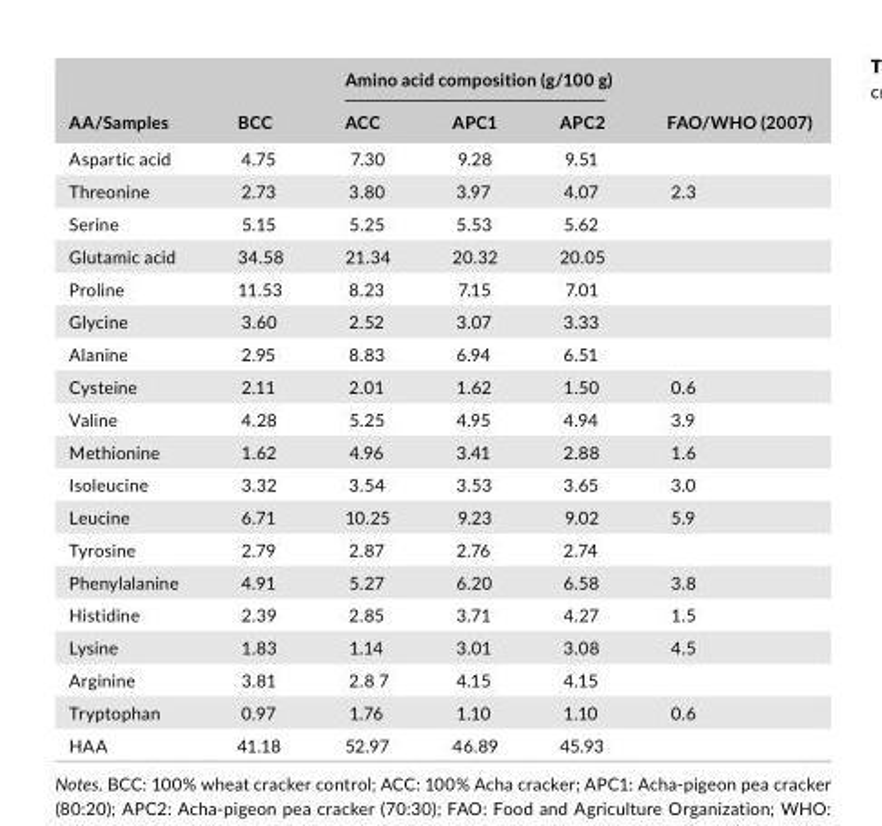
<table><thead><tr><td rowspan="2">AA/Samples</td><td rowspan="2">BCC</td><td colspan="3">Amino acid composition (g/100 g)</td><td rowspan="2">FAO/WHO (2007)</td></tr><tr><td>ACC</td><td>APC1</td><td>APC2</td></tr></thead><tbody><tr><td>Aspartic acid</td><td>4.75</td><td>7.30</td><td>9.28</td><td>9.51</td><td></td></tr><tr><td>Threonine</td><td>2.73</td><td>3.80</td><td>3.97</td><td>4.07</td><td>2.3</td></tr><tr><td>Serine</td><td>5.15</td><td>5.25</td><td>5.53</td><td>5.62</td><td></td></tr><tr><td>Glutamic acid</td><td>34.58</td><td>21.34</td><td>20.32</td><td>20.05</td><td></td></tr><tr><td>Proline</td><td>11.53</td><td>8.23</td><td>7.15</td><td>7.01</td><td></td></tr><tr><td>Glycine</td><td>3.60</td><td>2.52</td><td>3.07</td><td>3.33</td><td></td></tr><tr><td>Alanine</td><td>2.95</td><td>8.83</td><td>6.94</td><td>6.51</td><td></td></tr><tr><td>Cysteine</td><td>2.11</td><td>2.01</td><td>1.62</td><td>1.50</td><td>0.6</td></tr><tr><td>Valine</td><td>4.28</td><td>5.25</td><td>4.95</td><td>4.94</td><td>3.9</td></tr><tr><td>Methionine</td><td>1.62</td><td>4.96</td><td>3.41</td><td>2.88</td><td>1.6</td></tr><tr><td>Isoleucine</td><td>3.32</td><td>3.54</td><td>3.53</td><td>3.65</td><td>3.0</td></tr><tr><td>Leucine</td><td>6.71</td><td>10.25</td><td>9.23</td><td>9.02</td><td>5.9</td></tr><tr><td>Tyrosine</td><td>2.79</td><td>2.87</td><td>2.76</td><td>2.74</td><td></td></tr><tr><td>Phenylalanine</td><td>4.91</td><td>5.27</td><td>6.20</td><td>6.58</td><td>3.8</td></tr><tr><td>Histidine</td><td>2.39</td><td>2.85</td><td>3.71</td><td>4.27</td><td>1.5</td></tr><tr><td>Lysine</td><td>1.83</td><td>1.14</td><td>3.01</td><td>3.08</td><td>4.5</td></tr><tr><td>Arginine</td><td>3.81</td><td>2.8 7</td><td>4.15</td><td>4.15</td><td></td></tr><tr><td>Tryptophan</td><td>0.97</td><td>1.76</td><td>1.10</td><td>1.10</td><td>0.6</td></tr><tr><td>HAA</td><td>41.18</td><td>52.97</td><td>46.89</td><td>45.93</td><td></td></tr></tbody></table>